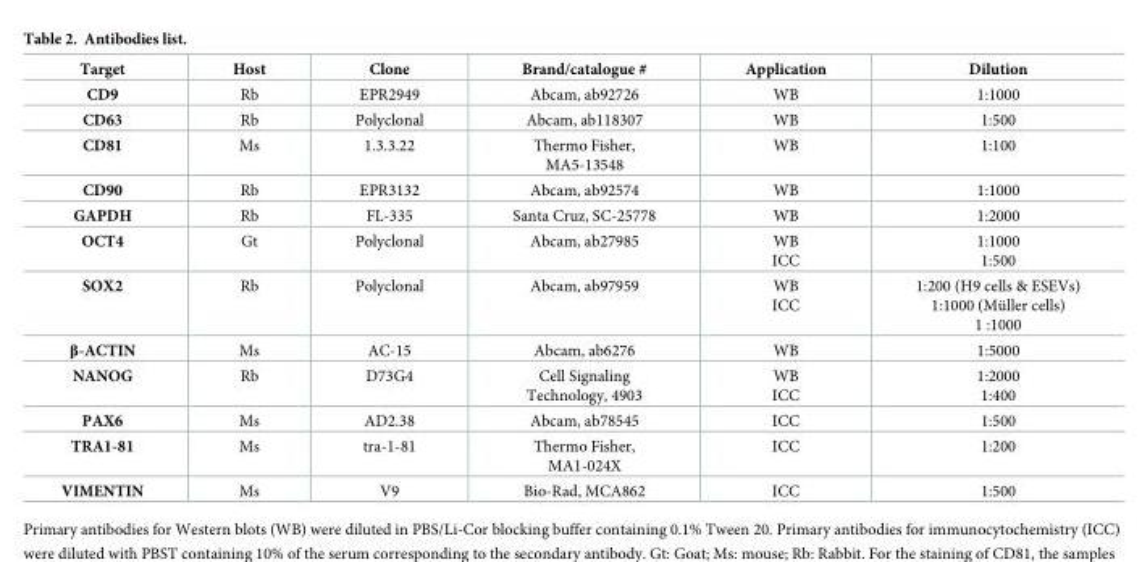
<table><thead><tr><td>Target</td><td>Host</td><td>Clone</td><td>Brand/catalogue #</td><td>Application</td><td>Dilution</td></tr></thead><tbody><tr><td>CD9</td><td>Rb</td><td>EPR2949</td><td>Abcam, ab92726</td><td>WB</td><td>1:1000</td></tr><tr><td>CD63</td><td>Rb</td><td>Polyclonal</td><td>Abcam, ab118307</td><td>WB</td><td>1:500</td></tr><tr><td>CD81</td><td>Ms</td><td>1.3.3.22</td><td>Thermo Fisher, MA5-13548</td><td>WB</td><td>1:100</td></tr><tr><td>CD90</td><td>Rb</td><td>EPR3132</td><td>Abcam, ab92574</td><td>WB</td><td>1:1000</td></tr><tr><td>GAPDH</td><td>Rb</td><td>FL-335</td><td>Santa Cruz, SC-25778</td><td>WB</td><td>1:2000</td></tr><tr><td>OCT4</td><td>Gt</td><td>Polyclonal</td><td>Abcam, ab27985</td><td>WB ICC</td><td>1:1000 1:500</td></tr><tr><td>SOX2</td><td>Rb</td><td>Polyclonal</td><td>Abcam, ab97959</td><td>WB ICC</td><td>1:200 (H9 cells &amp; ESEVs) 1:1000 (Mu¨ller cells) 1 :1000</td></tr><tr><td>β-ACTIN</td><td>Ms</td><td>AC-15</td><td>Abcam, ab6276</td><td>WB</td><td>1:5000</td></tr><tr><td>NANOG</td><td>Rb</td><td>D73G4</td><td>Cell Signaling Technology, 4903</td><td>WB ICC</td><td>1:2000 1:400</td></tr><tr><td>PAX6</td><td>Ms</td><td>AD2.38</td><td>Abcam, ab78545</td><td>ICC</td><td>1:500</td></tr><tr><td>TRA1-81</td><td>Ms</td><td>tra-1-81</td><td>Thermo Fisher, MA1-024X</td><td>ICC</td><td>1:200</td></tr><tr><td>VIMENTIN</td><td>Ms</td><td>V9</td><td>Bio-Rad, MCA862</td><td>ICC</td><td>1:500</td></tr></tbody></table>